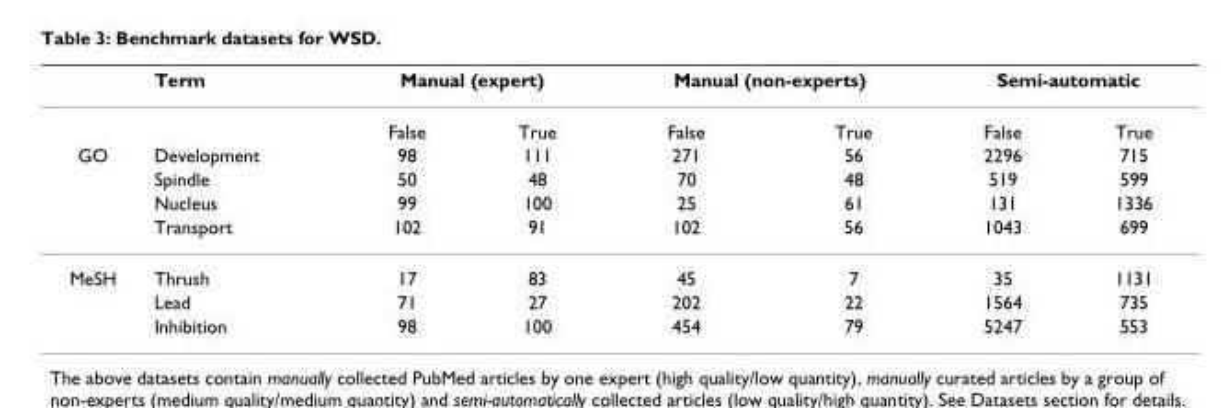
<table><thead><tr><td rowspan="2"></td><td rowspan="2">Term</td><td colspan="2">Manual (expert)</td><td colspan="2">Manual (non-experts)</td><td colspan="2">Semi-automatic</td></tr><tr><td>False</td><td>True</td><td>False</td><td>True</td><td>False</td><td>True</td></tr></thead><tbody><tr><td rowspan="4">GO</td><td>Development</td><td>98</td><td>111</td><td>271</td><td>56</td><td>2296</td><td>715</td></tr><tr><td>Spindle</td><td>50</td><td>48</td><td>70</td><td>48</td><td>519</td><td>599</td></tr><tr><td>Nucleus</td><td>99</td><td>100</td><td>25</td><td>61</td><td>131</td><td>1336</td></tr><tr><td>Transport</td><td>102</td><td>91</td><td>102</td><td>56</td><td>1043</td><td>699</td></tr><tr><td rowspan="3">MeSH</td><td>Thrush</td><td>17</td><td>83</td><td>45</td><td>7</td><td>35</td><td>1131</td></tr><tr><td>Lead</td><td>71</td><td>27</td><td>202</td><td>22</td><td>1564</td><td>735</td></tr><tr><td>Inhibition</td><td>98</td><td>100</td><td>454</td><td>79</td><td>5247</td><td>553</td></tr></tbody></table>